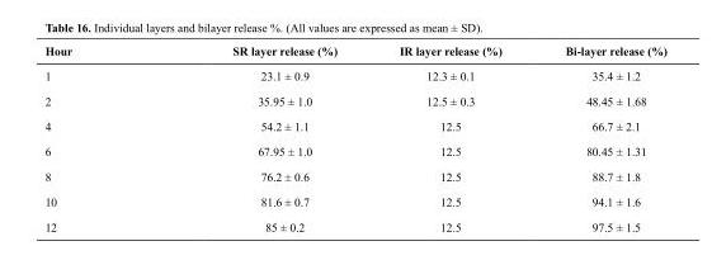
<table><thead><tr><td>Hour</td><td>SR layer release (%)</td><td>IR layer release (%)</td><td>Bi-layer release (%)</td></tr></thead><tbody><tr><td>1</td><td>23.1 ± 0.9</td><td>12.3 ± 0.1</td><td>35.4 ± 1.2</td></tr><tr><td>2</td><td>35.95 ± 1.0</td><td>12.5 ± 0.3</td><td>48.45 ± 1.68</td></tr><tr><td>4</td><td>54.2 ± 1.1</td><td>12.5</td><td>66.7 ± 2.1</td></tr><tr><td>6</td><td>67.95 ± 1.0</td><td>12.5</td><td>80.45 ± 1.31</td></tr><tr><td>8</td><td>76.2 ± 0.6</td><td>12.5</td><td>88.7 ± 1.8</td></tr><tr><td>10</td><td>81.6 ± 0.7</td><td>12.5</td><td>94.1 ± 1.6</td></tr><tr><td>12</td><td>85 ± 0.2</td><td>12.5</td><td>97.5 ± 1.5</td></tr></tbody></table>